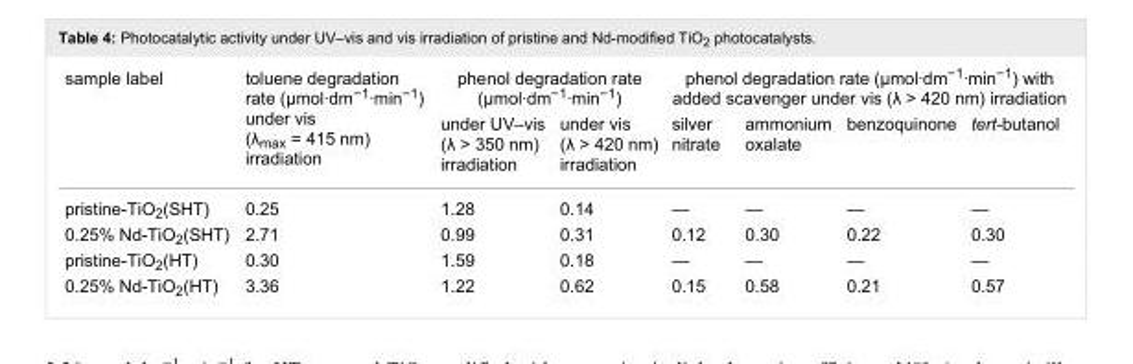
<table><tbody><tr><td rowspan="2">sample label</td><td rowspan="2">toluene degradation rate (μmol·dm<sup>−1</sup>·min<sup>−1</sup>) under vis (λ<sub>max</sub> = 415 nm) irradiation</td><td colspan="2">phenol degradation rate (μmol·dm<sup>−1</sup>·min<sup>−1</sup>)</td><td colspan="4">phenol degradation rate (μmol·dm<sup>−1</sup>·min<sup>−1</sup>) with added scavenger under vis (λ &gt; 420 nm) irradiation</td></tr><tr><td>under UV–vis (λ &gt; 350 nm) irradiation</td><td>under vis (λ &gt; 420 nm) irradiation</td><td>silver nitrate</td><td>ammonium oxalate</td><td>benzoquinone</td><td>tert-butanol</td></tr><tr><td>pristine-TiO<sub>2</sub>(SHT)</td><td>0.25</td><td>1.28</td><td>0.14</td><td>—</td><td>—</td><td>—</td><td>—</td></tr><tr><td>0.25% Nd-TiO<sub>2</sub>(SHT)</td><td>2.71</td><td>0.99</td><td>0.31</td><td>0.12</td><td>0.30</td><td>0.22</td><td>0.30</td></tr><tr><td>pristine-TiO<sub>2</sub>(HT)</td><td>0.30</td><td>1.59</td><td>0.18</td><td>—</td><td>—</td><td>—</td><td>—</td></tr><tr><td>0.25% Nd-TiO<sub>2</sub>(HT)</td><td>3.36</td><td>1.22</td><td>0.62</td><td>0.15</td><td>0.58</td><td>0.21</td><td>0.57</td></tr></tbody></table>